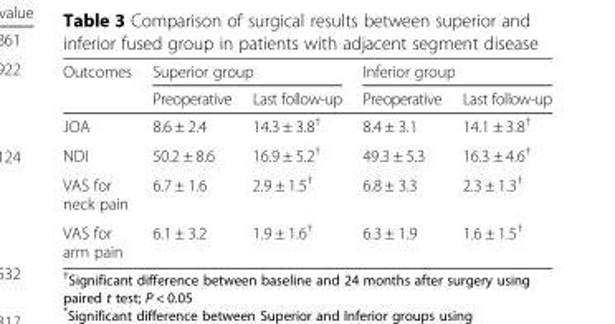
<table><thead><tr><td rowspan="2">Outcomes</td><td colspan="2">Superior group</td><td colspan="2">Inferior group</td></tr><tr><td>Preoperative</td><td>Last follow-up</td><td>Preoperative</td><td>Last follow-up</td></tr></thead><tbody><tr><td>JOA</td><td>8.6 ± 2.4</td><td>14.3 ± 3.8<sup>†</sup></td><td>8.4 ± 3.1</td><td>14.1 ± 3.8<sup>†</sup></td></tr><tr><td>NDI</td><td>50.2 ± 8.6</td><td>16.9 ± 5.2<sup>†</sup></td><td>49.3 ± 5.3</td><td>16.3 ± 4.6<sup>†</sup></td></tr><tr><td>VAS for neck pain</td><td>6.7 ± 1.6</td><td>2.9 ± 1.5<sup>†</sup></td><td>6.8 ± 3.3</td><td>2.3 ± 1.3<sup>†</sup></td></tr><tr><td>VAS for arm pain</td><td>6.1 ± 3.2</td><td>1.9 ± 1.6<sup>†</sup></td><td>6.3 ± 1.9</td><td>1.6 ± 1.5<sup>†</sup></td></tr></tbody></table>